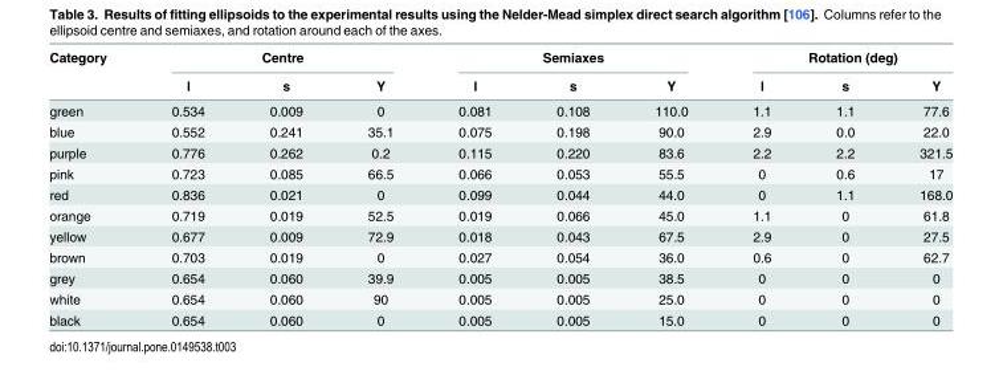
<table><thead><tr><td rowspan="2">Category</td><td colspan="3">Centre</td><td colspan="3">Semiaxes</td><td colspan="3">Rotation (deg)</td></tr><tr><td>l</td><td>s</td><td>Y</td><td>l</td><td>s</td><td>Y</td><td>l</td><td>s</td><td>Y</td></tr></thead><tbody><tr><td>green</td><td>0.534</td><td>0.009</td><td>0</td><td>0.081</td><td>0.108</td><td>110.0</td><td>1.1</td><td>1.1</td><td>77.6</td></tr><tr><td>blue</td><td>0.552</td><td>0.241</td><td>35.1</td><td>0.075</td><td>0.198</td><td>90.0</td><td>2.9</td><td>0.0</td><td>22.0</td></tr><tr><td>purple</td><td>0.776</td><td>0.262</td><td>0.2</td><td>0.115</td><td>0.220</td><td>83.6</td><td>2.2</td><td>2.2</td><td>321.5</td></tr><tr><td>pink</td><td>0.723</td><td>0.085</td><td>66.5</td><td>0.066</td><td>0.053</td><td>55.5</td><td>0</td><td>0.6</td><td>17</td></tr><tr><td>red</td><td>0.836</td><td>0.021</td><td>0</td><td>0.099</td><td>0.044</td><td>44.0</td><td>0</td><td>1.1</td><td>168.0</td></tr><tr><td>orange</td><td>0.719</td><td>0.019</td><td>52.5</td><td>0.019</td><td>0.066</td><td>45.0</td><td>1.1</td><td>0</td><td>61.8</td></tr><tr><td>yellow</td><td>0.677</td><td>0.009</td><td>72.9</td><td>0.018</td><td>0.043</td><td>67.5</td><td>2.9</td><td>0</td><td>27.5</td></tr><tr><td>brown</td><td>0.703</td><td>0.019</td><td>0</td><td>0.027</td><td>0.054</td><td>36.0</td><td>0.6</td><td>0</td><td>62.7</td></tr><tr><td>grey</td><td>0.654</td><td>0.060</td><td>39.9</td><td>0.005</td><td>0.005</td><td>38.5</td><td>0</td><td>0</td><td>0</td></tr><tr><td>white</td><td>0.654</td><td>0.060</td><td>90</td><td>0.005</td><td>0.005</td><td>25.0</td><td>0</td><td>0</td><td>0</td></tr><tr><td>black</td><td>0.654</td><td>0.060</td><td>0</td><td>0.005</td><td>0.005</td><td>15.0</td><td>0</td><td>0</td><td>0</td></tr></tbody></table>